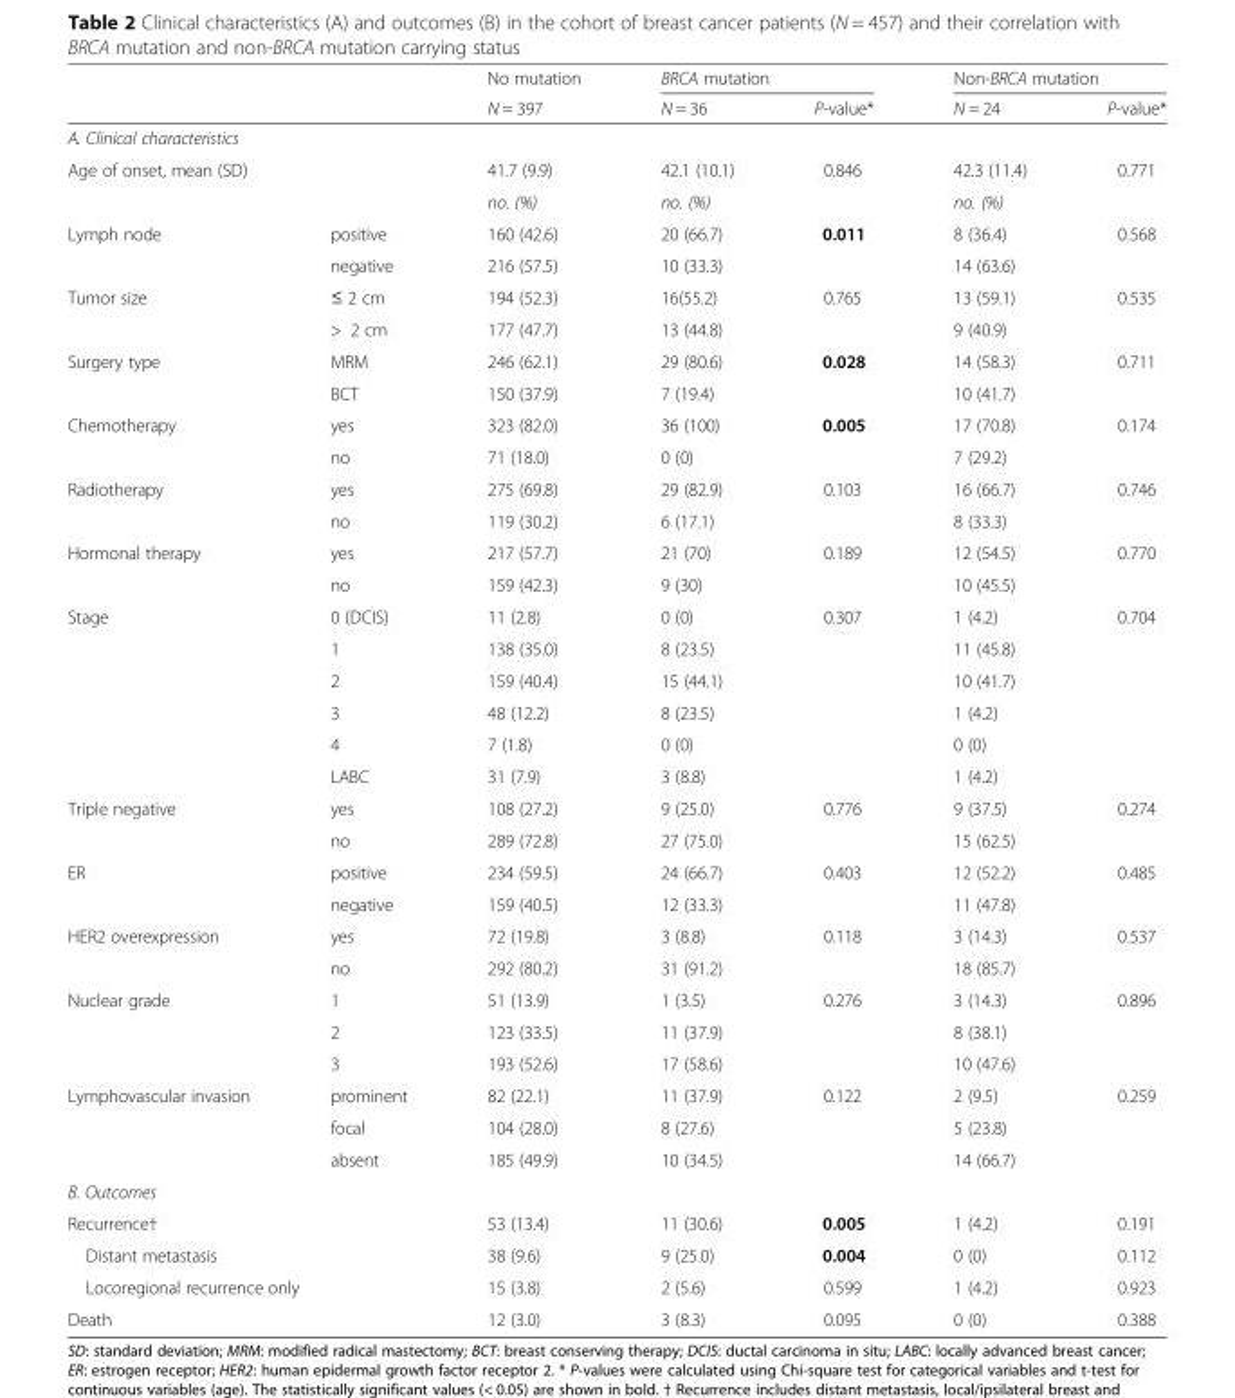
<table><thead><tr><td rowspan="2"></td><td rowspan="2"></td><td rowspan="2">No mutation N = 397</td><td colspan="2">BRCA mutation</td><td colspan="2">Non-BRCA mutation</td></tr><tr><td>N = 36</td><td>P-value*</td><td>N = 24</td><td>P-value*</td></tr></thead><tbody><tr><td colspan="7">A. Clinical characteristics</td></tr><tr><td rowspan="2">Age of onset, mean (SD)</td><td></td><td>41.7 (9.9)</td><td>42.1 (10.1)</td><td>0.846</td><td>42.3 (11.4)</td><td>0.771</td></tr><tr><td></td><td>no. (%)</td><td>no. (%)</td><td></td><td>no. (%)</td><td></td></tr><tr><td rowspan="2">Lymph node</td><td>positive</td><td>160 (42.6)</td><td>20 (66.7)</td><td>0.011</td><td>8 (36.4)</td><td>0.568</td></tr><tr><td>negative</td><td>216 (57.5)</td><td>10 (33.3)</td><td></td><td>14 (63.6)</td><td></td></tr><tr><td rowspan="2">Tumor size</td><td>≤ 2 cm</td><td>194 (52.3)</td><td>16(55.2)</td><td>0.765</td><td>13 (59.1)</td><td>0.535</td></tr><tr><td>&gt; 2 cm</td><td>177 (47.7)</td><td>13 (44.8)</td><td></td><td>9 (40.9)</td><td></td></tr><tr><td rowspan="2">Surgery type</td><td>MRM</td><td>246 (62.1)</td><td>29 (80.6)</td><td>0.028</td><td>14 (58.3)</td><td>0.711</td></tr><tr><td>BCT</td><td>150 (37.9)</td><td>7 (19.4)</td><td></td><td>10 (41.7)</td><td></td></tr><tr><td rowspan="2">Chemotherapy</td><td>yes</td><td>323 (82.0)</td><td>36 (100)</td><td>0.005</td><td>17 (70.8)</td><td>0.174</td></tr><tr><td>no</td><td>71 (18.0)</td><td>0 (0)</td><td></td><td>7 (29.2)</td><td></td></tr><tr><td rowspan="2">Radiotherapy</td><td>yes</td><td>275 (69.8)</td><td>29 (82.9)</td><td>0.103</td><td>16 (66.7)</td><td>0.746</td></tr><tr><td>no</td><td>119 (30.2)</td><td>6 (17.1)</td><td></td><td>8 (33.3)</td><td></td></tr><tr><td rowspan="2">Hormonal therapy</td><td>yes</td><td>217 (57.7)</td><td>21 (70)</td><td>0.189</td><td>12 (54.5)</td><td>0.770</td></tr><tr><td>no</td><td>159 (42.3)</td><td>9 (30)</td><td></td><td>10 (45.5)</td><td></td></tr><tr><td rowspan="6">Stage</td><td>0 (DCIS)</td><td>11 (2.8)</td><td>0 (0)</td><td>0.307</td><td>1 (4.2)</td><td>0.704</td></tr><tr><td>1</td><td>138 (35.0)</td><td>8 (23.5)</td><td></td><td>11 (45.8)</td><td></td></tr><tr><td>2</td><td>159 (40.4)</td><td>15 (44.1)</td><td></td><td>10 (41.7)</td><td></td></tr><tr><td>3</td><td>48 (12.2)</td><td>8 (23.5)</td><td></td><td>1 (4.2)</td><td></td></tr><tr><td>4</td><td>7 (1.8)</td><td>0 (0)</td><td></td><td>0 (0)</td><td></td></tr><tr><td>LABC</td><td>31 (7.9)</td><td>3 (8.8)</td><td></td><td>1 (4.2)</td><td></td></tr><tr><td rowspan="2">Triple negative</td><td>yes</td><td>108 (27.2)</td><td>9 (25.0)</td><td>0.776</td><td>9 (37.5)</td><td>0.274</td></tr><tr><td>no</td><td>289 (72.8)</td><td>27 (75.0)</td><td></td><td>15 (62.5)</td><td></td></tr><tr><td rowspan="2">ER</td><td>positive</td><td>234 (59.5)</td><td>24 (66.7)</td><td>0.403</td><td>12 (52.2)</td><td>0.485</td></tr><tr><td>negative</td><td>159 (40.5)</td><td>12 (33.3)</td><td></td><td>11 (47.8)</td><td></td></tr><tr><td rowspan="2">HER2 overexpression</td><td>yes</td><td>72 (19.8)</td><td>3 (8.8)</td><td>0.118</td><td>3 (14.3)</td><td>0.537</td></tr><tr><td>no</td><td>292 (80.2)</td><td>31 (91.2)</td><td></td><td>18 (85.7)</td><td></td></tr><tr><td rowspan="3">Nuclear grade</td><td>1</td><td>51 (13.9)</td><td>1 (3.5)</td><td>0.276</td><td>3 (14.3)</td><td>0.896</td></tr><tr><td>2</td><td>123 (33.5)</td><td>11 (37.9)</td><td></td><td>8 (38.1)</td><td></td></tr><tr><td>3</td><td>193 (52.6)</td><td>17 (58.6)</td><td></td><td>10 (47.6)</td><td></td></tr><tr><td rowspan="3">Lymphovascular invasion</td><td>prominent</td><td>82 (22.1)</td><td>11 (37.9)</td><td>0.122</td><td>2 (9.5)</td><td>0.259</td></tr><tr><td>focal</td><td>104 (28.0)</td><td>8 (27.6)</td><td></td><td>5 (23.8)</td><td></td></tr><tr><td>absent</td><td>185 (49.9)</td><td>10 (34.5)</td><td></td><td>14 (66.7)</td><td></td></tr><tr><td colspan="7">B. Outcomes</td></tr><tr><td colspan="2">Recurrence†</td><td>53 (13.4)</td><td>11 (30.6)</td><td>0.005</td><td>1 (4.2)</td><td>0.191</td></tr><tr><td colspan="2">Distant metastasis</td><td>38 (9.6)</td><td>9 (25.0)</td><td>0.004</td><td>0 (0)</td><td>0.112</td></tr><tr><td colspan="2">Locoregional recurrence only</td><td>15 (3.8)</td><td>2 (5.6)</td><td>0.599</td><td>1 (4.2)</td><td>0.923</td></tr><tr><td colspan="2">Death</td><td>12 (3.0)</td><td>3 (8.3)</td><td>0.095</td><td>0 (0)</td><td>0.388</td></tr></tbody></table>